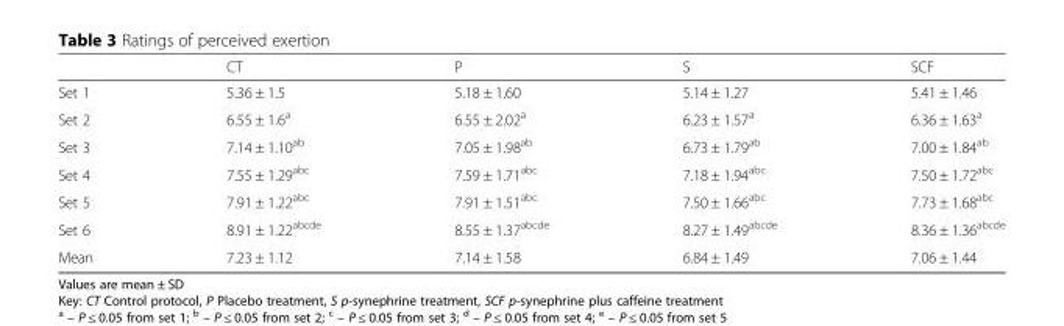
<table><thead><tr><td></td><td>CT</td><td>P</td><td>S</td><td>SCF</td></tr></thead><tbody><tr><td>Set 1</td><td>5.36 ± 1.5</td><td>5.18 ± 1.60</td><td>5.14 ± 1.27</td><td>5.41 ± 1.46</td></tr><tr><td>Set 2</td><td>6.55 ± 1.6<sup>a</sup></td><td>6.55 ± 2.02<sup>a</sup></td><td>6.23 ± 1.57<sup>a</sup></td><td>6.36 ± 1.63<sup>a</sup></td></tr><tr><td>Set 3</td><td>7.14 ± 1.10<sup>ab</sup></td><td>7.05 ± 1.98<sup>ab</sup></td><td>6.73 ± 1.79<sup>ab</sup></td><td>7.00 ± 1.84<sup>ab</sup></td></tr><tr><td>Set 4</td><td>7.55 ± 1.29<sup>abc</sup></td><td>7.59 ± 1.71<sup>abc</sup></td><td>7.18 ± 1.94<sup>abc</sup></td><td>7.50 ± 1.72<sup>abc</sup></td></tr><tr><td>Set 5</td><td>7.91 ± 1.22<sup>abc</sup></td><td>7.91 ± 1.51<sup>abc</sup></td><td>7.50 ± 1.66<sup>abc</sup></td><td>7.73 ± 1.68<sup>abc</sup></td></tr><tr><td>Set 6</td><td>8.91 ± 1.22<sup>abcde</sup></td><td>8.55 ± 1.37<sup>abcde</sup></td><td>8.27 ± 1.49<sup>abcde</sup></td><td>8.36 ± 1.36<sup>abcde</sup></td></tr><tr><td>Mean</td><td>7.23 ± 1.12</td><td>7.14 ± 1.58</td><td>6.84 ± 1.49</td><td>7.06 ± 1.44</td></tr></tbody></table>